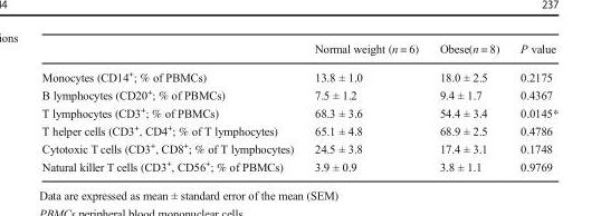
<table><thead><tr><td></td><td>Normal weight (n = 6)</td><td>Obese(n = 8)</td><td>P value</td></tr></thead><tbody><tr><td>Monocytes (CD14<sup>+</sup>; % of PBMCs)</td><td>13.8 ± 1.0</td><td>18.0 ± 2.5</td><td>0.2175</td></tr><tr><td>B lymphocytes (CD20<sup>+</sup>; % of PBMCs)</td><td>7.5 ± 1.2</td><td>9.4 ± 1.7</td><td>0.4367</td></tr><tr><td>T lymphocytes (CD3<sup>+</sup>; % of PBMCs)</td><td>68.3 ± 3.6</td><td>54.4 ± 3.4</td><td>0.0145*</td></tr><tr><td>T helper cells (CD3<sup>+</sup>, CD4<sup>+</sup>; % of T lymphocytes)</td><td>65.1 ± 4.8</td><td>68.9 ± 2.5</td><td>0.4786</td></tr><tr><td>Cytotoxic T cells (CD3<sup>+</sup>, CD8<sup>+</sup>; % of T lymphocytes)</td><td>24.5 ± 3.8</td><td>17.4 ± 3.1</td><td>0.1748</td></tr><tr><td>Natural killer T cells (CD3<sup>+</sup>, CD56<sup>+</sup>; % of PBMCs)</td><td>3.9 ± 0.9</td><td>3.8 ± 1.1</td><td>0.9769</td></tr></tbody></table>